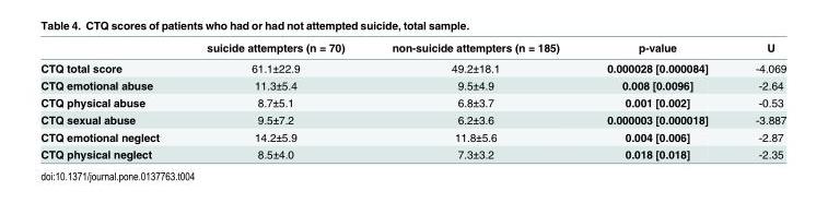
<table><thead><tr><td></td><td>suicide attempters (n = 70)</td><td>non-suicide attempters (n = 185)</td><td>p-value</td><td>U</td></tr></thead><tbody><tr><td>CTQ total score</td><td>61.1±22.9</td><td>49.2±18.1</td><td>0.000028 [0.000084]</td><td>-4.069</td></tr><tr><td>CTQ emotional abuse</td><td>11.3±5.4</td><td>9.5±4.9</td><td>0.008 [0.0096]</td><td>-2.64</td></tr><tr><td>CTQ physical abuse</td><td>8.7±5.1</td><td>6.8±3.7</td><td>0.001 [0.002]</td><td>-0.53</td></tr><tr><td>CTQ sexual abuse</td><td>9.5±7.2</td><td>6.2±3.6</td><td>0.000003 [0.000018]</td><td>-3.887</td></tr><tr><td>CTQ emotional neglect</td><td>14.2±5.9</td><td>11.8±5.6</td><td>0.004 [0.006]</td><td>-2.87</td></tr><tr><td>CTQ physical neglect</td><td>8.5±4.0</td><td>7.3±3.2</td><td>0.018 [0.018]</td><td>-2.35</td></tr></tbody></table>